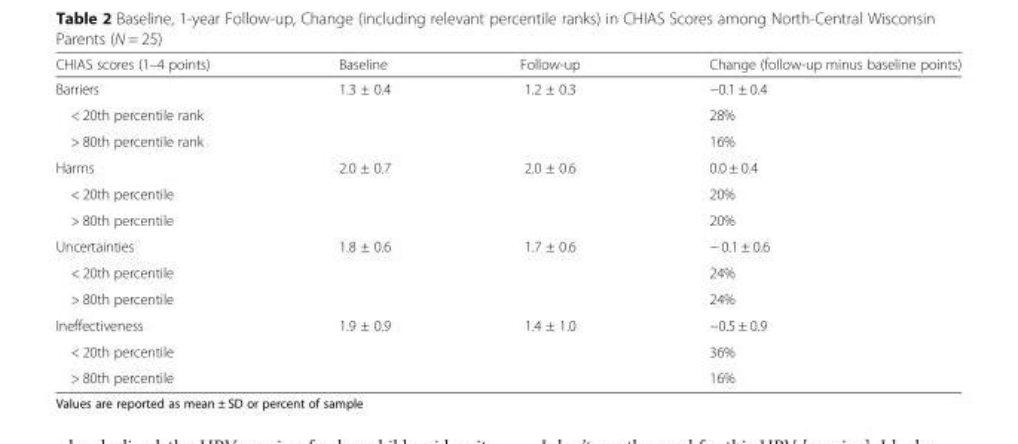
<table><thead><tr><td>CHIAS scores (1–4 points)</td><td>Baseline</td><td>Follow-up</td><td>Change (follow-up minus baseline points)</td></tr></thead><tbody><tr><td>Barriers</td><td>1.3 ± 0.4</td><td>1.2 ± 0.3</td><td>−0.1 ± 0.4</td></tr><tr><td>&lt; 20th percentile rank</td><td></td><td></td><td>28%</td></tr><tr><td>&gt; 80th percentile rank</td><td></td><td></td><td>16%</td></tr><tr><td>Harms</td><td>2.0 ± 0.7</td><td>2.0 ± 0.6</td><td>0.0 ± 0.4</td></tr><tr><td>&lt; 20th percentile</td><td></td><td></td><td>20%</td></tr><tr><td>&gt; 80th percentile</td><td></td><td></td><td>20%</td></tr><tr><td>Uncertainties</td><td>1.8 ± 0.6</td><td>1.7 ± 0.6</td><td>− 0.1 ± 0.6</td></tr><tr><td>&lt; 20th percentile</td><td></td><td></td><td>24%</td></tr><tr><td>&gt; 80th percentile</td><td></td><td></td><td>24%</td></tr><tr><td>Ineffectiveness</td><td>1.9 ± 0.9</td><td>1.4 ± 1.0</td><td>−0.5 ± 0.9</td></tr><tr><td>&lt; 20th percentile</td><td></td><td></td><td>36%</td></tr><tr><td>&gt; 80th percentile</td><td></td><td></td><td>16%</td></tr></tbody></table>